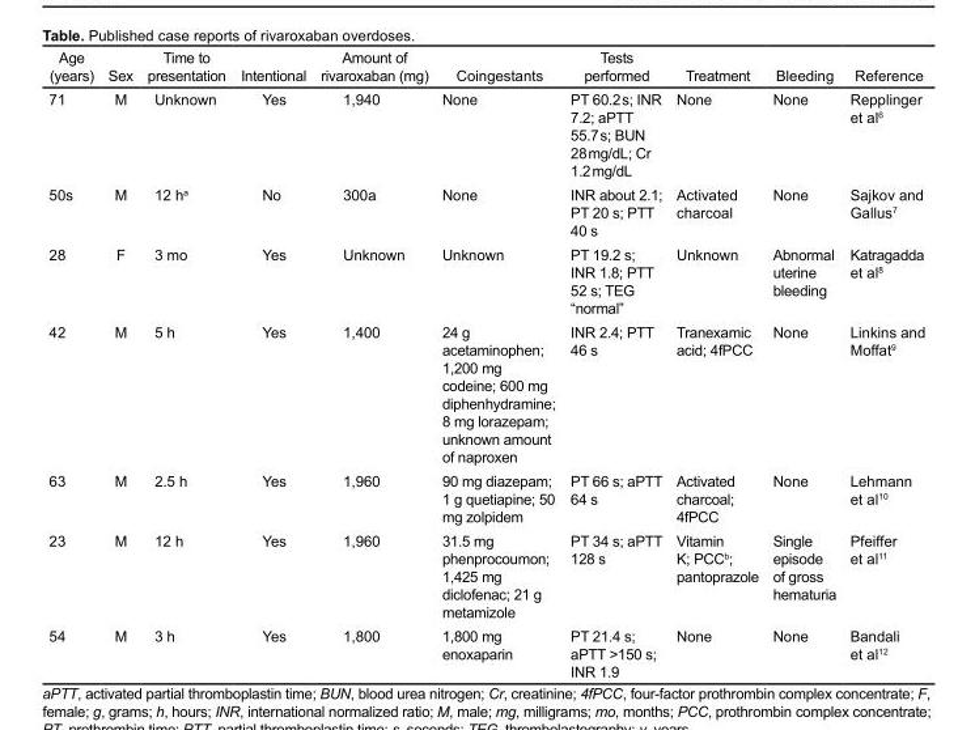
<table><thead><tr><td>Age (years)</td><td>Sex</td><td>Time to presentation</td><td>Intentional</td><td>Amount of rivaroxaban (mg)</td><td>Coingestants</td><td>Tests performed</td><td>Treatment</td><td>Bleeding</td><td>Reference</td></tr></thead><tbody><tr><td>71</td><td>M</td><td>Unknown</td><td>Yes</td><td>1,940</td><td>None</td><td>PT 60.2 s; INR 7.2; aPTT 55.7 s; BUN 28 mg/dL; Cr 1.2 mg/dL</td><td>None</td><td>None</td><td>Repplinger et al<sup>6</sup></td></tr><tr><td>50s</td><td>M</td><td>12 h<sup>a</sup></td><td>No</td><td>300a</td><td>None</td><td>INR about 2.1; PT 20 s; PTT 40 s</td><td>Activated charcoal</td><td>None</td><td>Sajkov and Gallus<sup>7</sup></td></tr><tr><td>28</td><td>F</td><td>3 mo</td><td>Yes</td><td>Unknown</td><td>Unknown</td><td>PT 19.2 s; INR 1.8; PTT 52 s; TEG “normal”</td><td>Unknown</td><td>Abnormal uterine bleeding</td><td>Katragadda et al<sup>8</sup></td></tr><tr><td>42</td><td>M</td><td>5 h</td><td>Yes</td><td>1,400</td><td>24 g acetaminophen; 1,200 mg codeine; 600 mg diphenhydramine; 8 mg lorazepam; unknown amount of naproxen</td><td>INR 2.4; PTT 46 s</td><td>Tranexamic acid; 4fPCC</td><td>None</td><td>Linkins and Moffat<sup>9</sup></td></tr><tr><td>63</td><td>M</td><td>2.5 h</td><td>Yes</td><td>1,960</td><td>90 mg diazepam; 1 g quetiapine; 50 mg zolpidem</td><td>PT 66 s; aPTT 64 s</td><td>Activated charcoal; 4fPCC</td><td>None</td><td>Lehmann et al<sup>10</sup></td></tr><tr><td>23</td><td>M</td><td>12 h</td><td>Yes</td><td>1,960</td><td>31.5 mg phenprocoumon; 1,425 mg diclofenac; 21 g metamizole</td><td>PT 34 s; aPTT 128 s</td><td>Vitamin K; PCC<sup>b</sup>; pantoprazole</td><td>Single episode of gross hematuria</td><td>Pfeiffer et al<sup>11</sup></td></tr><tr><td>54</td><td>M</td><td>3 h</td><td>Yes</td><td>1,800</td><td>1,800 mg enoxaparin</td><td>PT 21.4 s; aPTT &gt;150 s; INR 1.9</td><td>None</td><td>None</td><td>Bandali et al<sup>12</sup></td></tr></tbody></table>